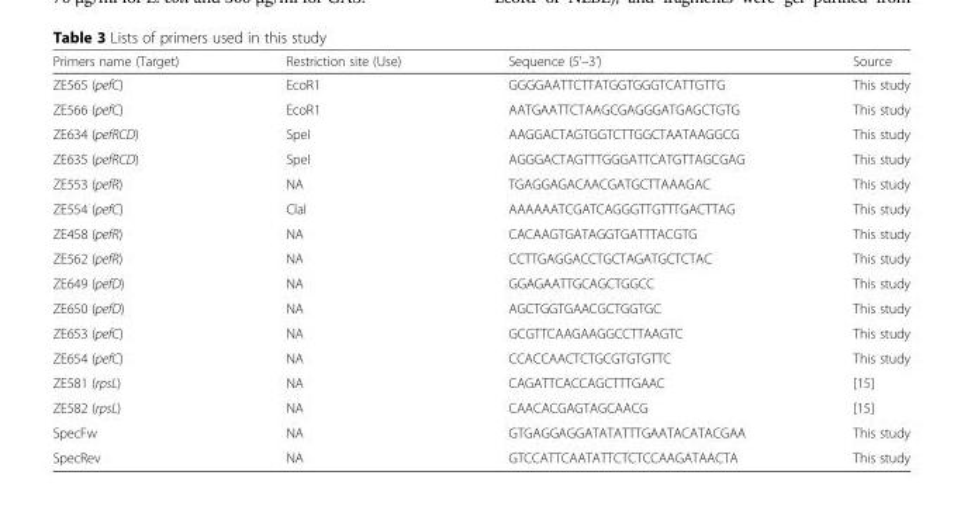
<table><thead><tr><td>Primers name (Target)</td><td>Restriction site (Use)</td><td>Sequence (5’–3’)</td><td>Source</td></tr></thead><tbody><tr><td>ZE565 (pefC)</td><td>EcoR1</td><td>GGGGAATTCTTATGGTGGGTCATTGTTG</td><td>This study</td></tr><tr><td>ZE566 (pefC)</td><td>EcoR1</td><td>AATGAATTCTAAGCGAGGGATGAGCTGTG</td><td>This study</td></tr><tr><td>ZE634 (pefRCD)</td><td>SpeI</td><td>AAGGACTAGTGGTCTTGGCTAATAAGGCG</td><td>This study</td></tr><tr><td>ZE635 (pefRCD)</td><td>SpeI</td><td>AGGGACTAGTTTGGGATTCATGTTAGCGAG</td><td>This study</td></tr><tr><td>ZE553 (pefR)</td><td>NA</td><td>TGAGGAGACAACGATGCTTAAAGAC</td><td>This study</td></tr><tr><td>ZE554 (pefC)</td><td>ClaI</td><td>AAAAAATCGATCAGGGTTGTTTGACTTAG</td><td>This study</td></tr><tr><td>ZE458 (pefR)</td><td>NA</td><td>CACAAGTGATAGGTGATTTACGTG</td><td>This study</td></tr><tr><td>ZE562 (pefR)</td><td>NA</td><td>CCTTGAGGACCTGCTAGATGCTCTAC</td><td>This study</td></tr><tr><td>ZE649 (pefD)</td><td>NA</td><td>GGAGAATTGCAGCTGGCC</td><td>This study</td></tr><tr><td>ZE650 (pefD)</td><td>NA</td><td>AGCTGGTGAACGCTGGTGC</td><td>This study</td></tr><tr><td>ZE653 (pefC)</td><td>NA</td><td>GCGTTCAAGAAGGCCTTAAGTC</td><td>This study</td></tr><tr><td>ZE654 (pefC)</td><td>NA</td><td>CCACCAACTCTGCGTGTGTTC</td><td>This study</td></tr><tr><td>ZE581 (rpsL)</td><td>NA</td><td>CAGATTCACCAGCTTTGAAC</td><td>[15]</td></tr><tr><td>ZE582 (rpsL)</td><td>NA</td><td>CAACACGAGTAGCAACG</td><td>[15]</td></tr><tr><td>SpecFw</td><td>NA</td><td>GTGAGGAGGATATATTTGAATACATACGAA</td><td>This study</td></tr><tr><td>SpecRev</td><td>NA</td><td>GTCCATTCAATATTCTCTCCAAGATAACTA</td><td>This study</td></tr></tbody></table>